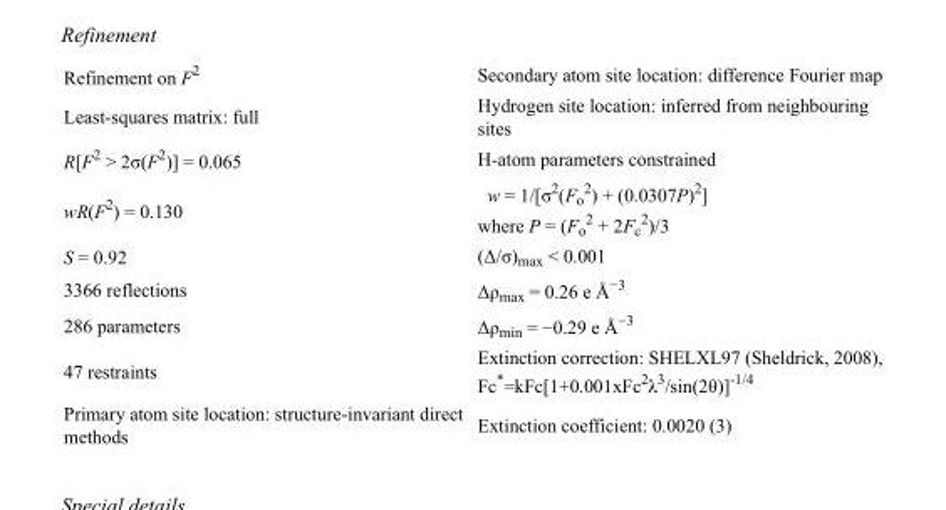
<table><tbody><tr><td>Refinement on F<sup>2</sup></td><td>Secondary atom site location: difference Fourier map</td></tr><tr><td>Least-squares matrix: full</td><td>Hydrogen site location: inferred from neighbouring sites</td></tr><tr><td>R[F<sup>2</sup> &gt; 2σ(F<sup>2</sup>)] = 0.065</td><td>H-atom parameters constrained</td></tr><tr><td>wR(F<sup>2</sup>) = 0.130</td><td>w = 1/[σ<sup>2</sup>(F<sub>o</sub> <sup>2</sup>) + (0.0307P)<sup>2</sup>] where P = (F<sub>o</sub> <sup>2</sup> + 2F<sub>c</sub> <sup>2</sup>)/3</td></tr><tr><td>S = 0.92</td><td>(Δ/σ)<sub>max</sub> &lt; 0.001</td></tr><tr><td>3366 reflections</td><td>Δρ<sub>max</sub> = 0.26 e Å<sup>−3</sup></td></tr><tr><td>286 parameters</td><td>Δρ<sub>min</sub> = −0.29 e Å<sup>−3</sup></td></tr><tr><td>47 restraints</td><td>Extinction correction: SHELXL97 (Sheldrick, 2008), Fc*=kFc[1+0.001xFc<sup>2</sup>λ<sup>3</sup>/sin(2θ)]<sup>-1/4</sup></td></tr><tr><td>Primary atom site location: structure-invariant direct methods</td><td>Extinction coefficient: 0.0020 (3)</td></tr></tbody></table>